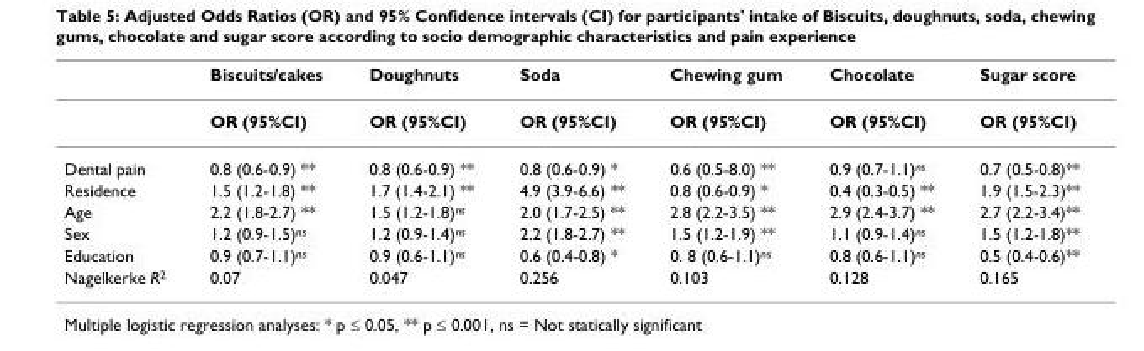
<table><thead><tr><td></td><td>Biscuits/cakes</td><td>Doughnuts</td><td>Soda</td><td>Chewing gum</td><td>Chocolate</td><td>Sugar score</td></tr></thead><tbody><tr><td></td><td>OR (95%CI)</td><td>OR (95%CI)</td><td>OR (95%CI)</td><td>OR (95%CI)</td><td>OR (95%CI)</td><td>OR (95%CI)</td></tr><tr><td>Dental pain</td><td>0.8 (0.6-0.9) **</td><td>0.8 (0.6-0.9) **</td><td>0.8 (0.6-0.9) *</td><td>0.6 (0.5-8.0) **</td><td>0.9 (0.7-1.1)<sup>ns</sup></td><td>0.7 (0.5-0.8)**</td></tr><tr><td>Residence</td><td>1.5 (1.2-1.8) **</td><td>1.7 (1.4-2.1) **</td><td>4.9 (3.9-6.6) **</td><td>0.8 (0.6-0.9) *</td><td>0.4 (0.3-0.5) **</td><td>1.9 (1.5-2.3)**</td></tr><tr><td>Age</td><td>2.2 (1.8-2.7) **</td><td>1.5 (1.2-1.8)<sup>ns</sup></td><td>2.0 (1.7-2.5) **</td><td>2.8 (2.2-3.5) **</td><td>2.9 (2.4-3.7) **</td><td>2.7 (2.2-3.4)**</td></tr><tr><td>Sex</td><td>1.2 (0.9-1.5)<sup>ns</sup></td><td>1.2 (0.9-1.4)<sup>ns</sup></td><td>2.2 (1.8-2.7) **</td><td>1.5 (1.2-1.9) **</td><td>1.1 (0.9-1.4)<sup>ns</sup></td><td>1.5 (1.2-1.8)**</td></tr><tr><td>Education</td><td>0.9 (0.7-1.1)<sup>ns</sup></td><td>0.9 (0.6-1.1)<sup>ns</sup></td><td>0.6 (0.4-0.8) *</td><td>0. 8 (0.6-1.1)<sup>ns</sup></td><td>0.8 (0.6-1.1)<sup>ns</sup></td><td>0.5 (0.4-0.6)**</td></tr><tr><td>Nagelkerke R<sup>2</sup></td><td>0.07</td><td>0.047</td><td>0.256</td><td>0.103</td><td>0.128</td><td>0.165</td></tr></tbody></table>